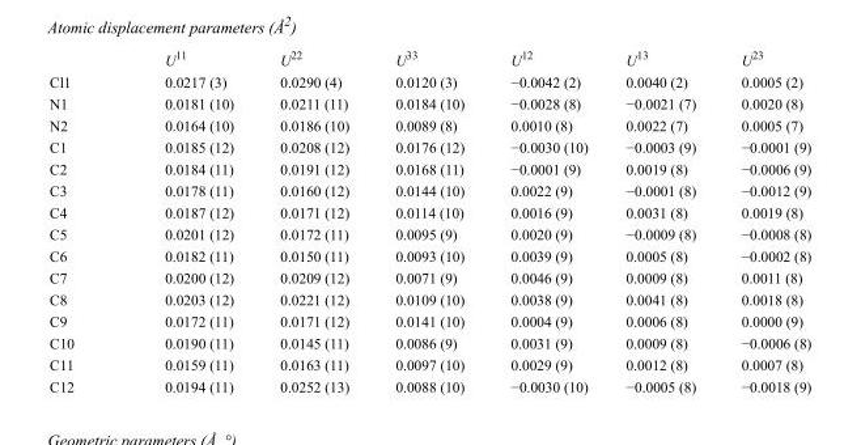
<table><thead><tr><td></td><td>U<sup>11</sup></td><td>U<sup>22</sup></td><td>U<sup>33</sup></td><td>U<sup>12</sup></td><td>U<sup>13</sup></td><td>U<sup>23</sup></td></tr></thead><tbody><tr><td>Cl1</td><td>0.0217 (3)</td><td>0.0290 (4)</td><td>0.0120 (3)</td><td>−0.0042 (2)</td><td>0.0040 (2)</td><td>0.0005 (2)</td></tr><tr><td>N1</td><td>0.0181 (10)</td><td>0.0211 (11)</td><td>0.0184 (10)</td><td>−0.0028 (8)</td><td>−0.0021 (7)</td><td>0.0020 (8)</td></tr><tr><td>N2</td><td>0.0164 (10)</td><td>0.0186 (10)</td><td>0.0089 (8)</td><td>0.0010 (8)</td><td>0.0022 (7)</td><td>0.0005 (7)</td></tr><tr><td>C1</td><td>0.0185 (12)</td><td>0.0208 (12)</td><td>0.0176 (12)</td><td>−0.0030 (10)</td><td>−0.0003 (9)</td><td>−0.0001 (9)</td></tr><tr><td>C2</td><td>0.0184 (11)</td><td>0.0191 (12)</td><td>0.0168 (11)</td><td>−0.0001 (9)</td><td>0.0019 (8)</td><td>−0.0006 (9)</td></tr><tr><td>C3</td><td>0.0178 (11)</td><td>0.0160 (12)</td><td>0.0144 (10)</td><td>0.0022 (9)</td><td>−0.0001 (8)</td><td>−0.0012 (9)</td></tr><tr><td>C4</td><td>0.0187 (12)</td><td>0.0171 (12)</td><td>0.0114 (10)</td><td>0.0016 (9)</td><td>0.0031 (8)</td><td>0.0019 (8)</td></tr><tr><td>C5</td><td>0.0201 (12)</td><td>0.0172 (11)</td><td>0.0095 (9)</td><td>0.0020 (9)</td><td>−0.0009 (8)</td><td>−0.0008 (8)</td></tr><tr><td>C6</td><td>0.0182 (11)</td><td>0.0150 (11)</td><td>0.0093 (10)</td><td>0.0039 (9)</td><td>0.0005 (8)</td><td>−0.0002 (8)</td></tr><tr><td>C7</td><td>0.0200 (12)</td><td>0.0209 (12)</td><td>0.0071 (9)</td><td>0.0046 (9)</td><td>0.0009 (8)</td><td>0.0011 (8)</td></tr><tr><td>C8</td><td>0.0203 (12)</td><td>0.0221 (12)</td><td>0.0109 (10)</td><td>0.0038 (9)</td><td>0.0041 (8)</td><td>0.0018 (8)</td></tr><tr><td>C9</td><td>0.0172 (11)</td><td>0.0171 (12)</td><td>0.0141 (10)</td><td>0.0004 (9)</td><td>0.0006 (8)</td><td>0.0000 (9)</td></tr><tr><td>C10</td><td>0.0190 (11)</td><td>0.0145 (11)</td><td>0.0086 (9)</td><td>0.0031 (9)</td><td>0.0009 (8)</td><td>−0.0006 (8)</td></tr><tr><td>C11</td><td>0.0159 (11)</td><td>0.0163 (11)</td><td>0.0097 (10)</td><td>0.0029 (9)</td><td>0.0012 (8)</td><td>0.0007 (8)</td></tr><tr><td>C12</td><td>0.0194 (11)</td><td>0.0252 (13)</td><td>0.0088 (10)</td><td>−0.0030 (10)</td><td>−0.0005 (8)</td><td>−0.0018 (9)</td></tr></tbody></table>